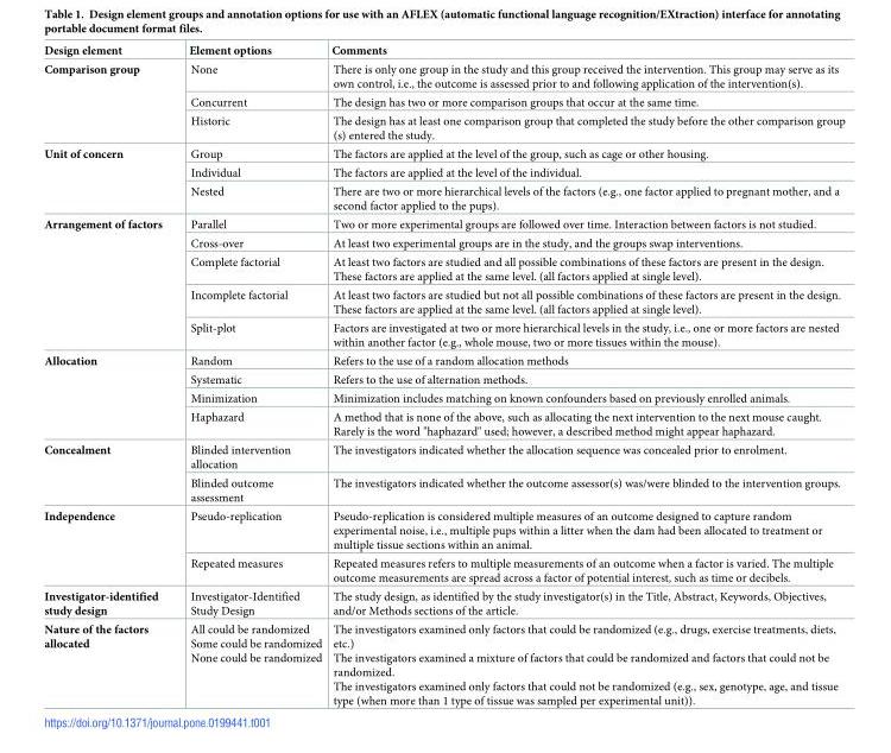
<table><thead><tr><td>Design element</td><td>Element options</td><td>Comments</td></tr></thead><tbody><tr><td rowspan="3">Comparison group</td><td>None</td><td>There is only one group in the study and this group received the intervention. This group may serve as its own control, i.e., the outcome is assessed prior to and following application of the intervention(s).</td></tr><tr><td>Concurrent</td><td>The design has two or more comparison groups that occur at the same time.</td></tr><tr><td>Historic</td><td>The design has at least one comparison group that completed the study before the other comparison group (s) entered the study.</td></tr><tr><td rowspan="3">Unit of concern</td><td>Group</td><td>The factors are applied at the level of the group, such as cage or other housing.</td></tr><tr><td>Individual</td><td>The factors are applied at the level of the individual.</td></tr><tr><td>Nested</td><td>There are two or more hierarchical levels of the factors (e.g., one factor applied to pregnant mother, and a second factor applied to the pups).</td></tr><tr><td rowspan="5">Arrangement of factors</td><td>Parallel</td><td>Two or more experimental groups are followed over time. Interaction between factors is not studied.</td></tr><tr><td>Cross-over</td><td>At least two experimental groups are in the study, and the groups swap interventions.</td></tr><tr><td>Complete factorial</td><td>At least two factors are studied and all possible combinations of these factors are present in the design. These factors are applied at the same level. (all factors applied at single level).</td></tr><tr><td>Incomplete factorial</td><td>At least two factors are studied but not all possible combinations of these factors are present in the design. These factors are applied at the same level. (all factors applied at single level).</td></tr><tr><td>Split-plot</td><td>Factors are investigated at two or more hierarchical levels in the study, i.e., one or more factors are nested within another factor (e.g., whole mouse, two or more tissues within the mouse).</td></tr><tr><td rowspan="4">Allocation</td><td>Random</td><td>Refers to the use of a random allocation methods</td></tr><tr><td>Systematic</td><td>Refers to the use of alternation methods.</td></tr><tr><td>Minimization</td><td>Minimization includes matching on known confounders based on previously enrolled animals.</td></tr><tr><td>Haphazard</td><td>A method that is none of the above, such as allocating the next intervention to the next mouse caught. Rarely is the word &quot;haphazard&quot; used; however, a described method might appear haphazard.</td></tr><tr><td rowspan="2">Concealment</td><td>Blinded intervention allocation</td><td>The investigators indicated whether the allocation sequence was concealed prior to enrolment.</td></tr><tr><td>Blinded outcome assessment</td><td>The investigators indicated whether the outcome assessor(s) was/were blinded to the intervention groups.</td></tr><tr><td rowspan="2">Independence</td><td>Pseudo-replication</td><td>Pseudo-replication is considered multiple measures of an outcome designed to capture random experimental noise, i.e., multiple pups within a litter when the dam had been allocated to treatment or multiple tissue sections within an animal.</td></tr><tr><td>Repeated measures</td><td>Repeated measures refers to multiple measurements of an outcome when a factor is varied. The multiple outcome measurements are spread across a factor of potential interest, such as time or decibels.</td></tr><tr><td>Investigator-identified study design</td><td>Investigator-Identified Study Design</td><td>The study design, as identified by the study investigator(s) in the Title, Abstract, Keywords, Objectives, and/or Methods sections of the article.</td></tr><tr><td>Nature of the factors allocated</td><td>All could be randomized Some could be randomized None could be randomized</td><td>The investigators examined only factors that could be randomized (e.g., drugs, exercise treatments, diets, etc.) The investigators examined a mixture of factors that could be randomized and factors that could not be randomized. The investigators examined only factors that could not be randomized (e.g., sex, genotype, age, and tissue type (when more than 1 type of tissue was sampled per experimental unit)).</td></tr></tbody></table>